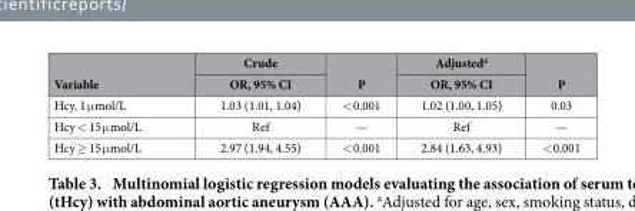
<table><thead><tr><td rowspan="2">Variable</td><td rowspan="2">Crude OR, 95% CI</td><td rowspan="2">P</td><td rowspan="2">Adjusted<sup>a</sup> OR, 95% CI</td><td rowspan="2">P</td></tr><tr></tr></thead><tbody><tr><td>Hcy, 1 μ mol/L</td><td>1.03 (1.01, 1.04)</td><td>&lt; 0.001</td><td>1.02 (1.00, 1.05)</td><td>0.03</td></tr><tr><td>Hcy &lt; 15 μ mol/L</td><td>Ref</td><td>—</td><td>Ref</td><td>—</td></tr><tr><td>Hcy ≥ 15 μ mol/L</td><td>2.97 (1.94, 4.55)</td><td>&lt; 0.001</td><td>2.84 (1.63, 4.93)</td><td>&lt; 0.001</td></tr></tbody></table>